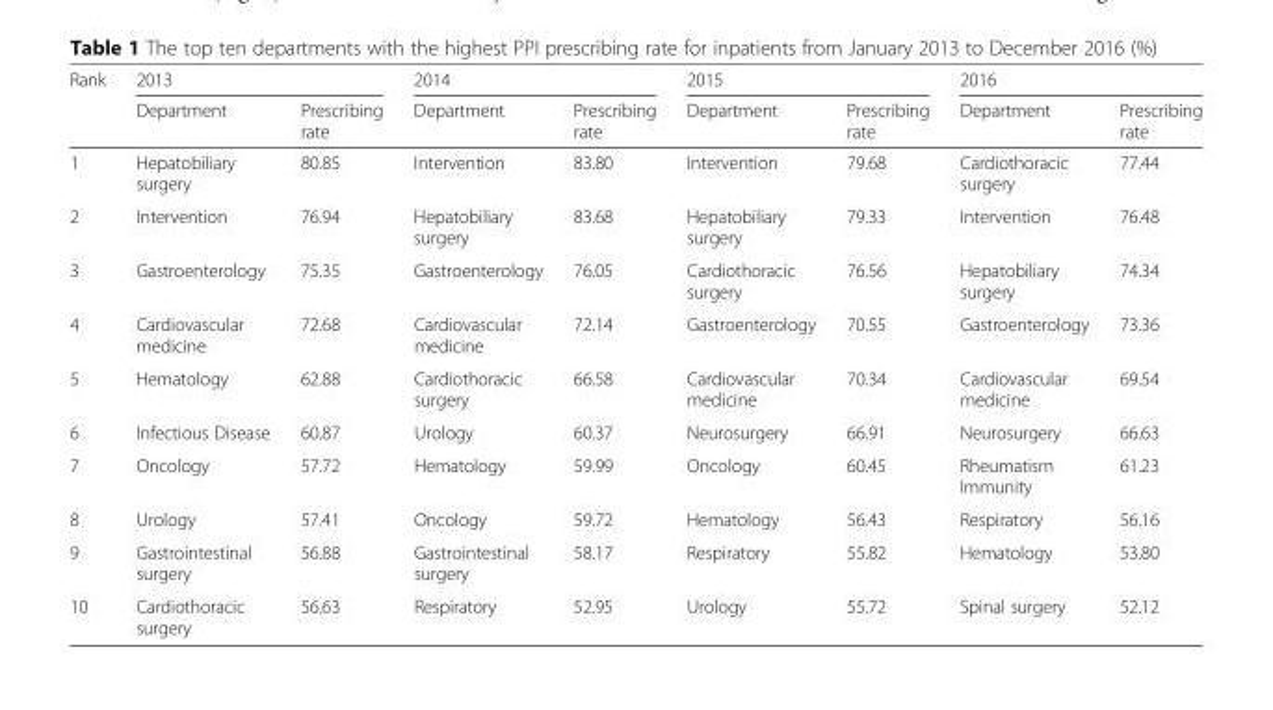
<table><thead><tr><td rowspan="2">Rank</td><td colspan="2">2013</td><td colspan="2">2014</td><td colspan="2">2015</td><td colspan="2">2016</td></tr><tr><td>Department</td><td>Prescribing rate</td><td>Department</td><td>Prescribing rate</td><td>Department</td><td>Prescribing rate</td><td>Department</td><td>Prescribing rate</td></tr></thead><tbody><tr><td>1</td><td>Hepatobiliary surgery</td><td>80.85</td><td>Intervention</td><td>83.80</td><td>Intervention</td><td>79.68</td><td>Cardiothoracic surgery</td><td>77.44</td></tr><tr><td>2</td><td>Intervention</td><td>76.94</td><td>Hepatobiliary surgery</td><td>83.68</td><td>Hepatobiliary surgery</td><td>79.33</td><td>Intervention</td><td>76.48</td></tr><tr><td>3</td><td>Gastroenterology</td><td>75.35</td><td>Gastroenterology</td><td>76.05</td><td>Cardiothoracic surgery</td><td>76.56</td><td>Hepatobiliary surgery</td><td>74.34</td></tr><tr><td>4</td><td>Cardiovascular medicine</td><td>72.68</td><td>Cardiovascular medicine</td><td>72.14</td><td>Gastroenterology</td><td>70.55</td><td>Gastroenterology</td><td>73.36</td></tr><tr><td>5</td><td>Hematology</td><td>62.88</td><td>Cardiothoracic surgery</td><td>66.58</td><td>Cardiovascular medicine</td><td>70.34</td><td>Cardiovascular medicine</td><td>69.54</td></tr><tr><td>6</td><td>Infectious Disease</td><td>60.87</td><td>Urology</td><td>60.37</td><td>Neurosurgery</td><td>66.91</td><td>Neurosurgery</td><td>66.63</td></tr><tr><td>7</td><td>Oncology</td><td>57.72</td><td>Hematology</td><td>59.99</td><td>Oncology</td><td>60.45</td><td>Rheumatism Immunity</td><td>61.23</td></tr><tr><td>8</td><td>Urology</td><td>57.41</td><td>Oncology</td><td>59.72</td><td>Hematology</td><td>56.43</td><td>Respiratory</td><td>56.16</td></tr><tr><td>9</td><td>Gastrointestinal surgery</td><td>56.88</td><td>Gastrointestinal surgery</td><td>58.17</td><td>Respiratory</td><td>55.82</td><td>Hematology</td><td>53.80</td></tr><tr><td>10</td><td>Cardiothoracic surgery</td><td>56.63</td><td>Respiratory</td><td>52.95</td><td>Urology</td><td>55.72</td><td>Spinal surgery</td><td>52.12</td></tr></tbody></table>